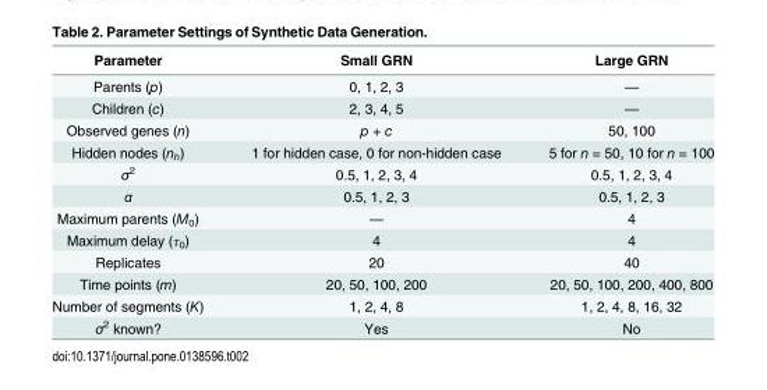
<table><thead><tr><td>Parameter</td><td>Small GRN</td><td>Large GRN</td></tr></thead><tbody><tr><td>Parents (p)</td><td>0, 1, 2, 3</td><td>—</td></tr><tr><td>Children (c)</td><td>2, 3, 4, 5</td><td>—</td></tr><tr><td>Observed genes (n)</td><td>p + c</td><td>50, 100</td></tr><tr><td>Hidden nodes (n<sub>h</sub>)</td><td>1 for hidden case, 0 for non-hidden case</td><td>5 for n = 50, 10 for n = 100</td></tr><tr><td>σ<sup>2</sup></td><td>0.5, 1, 2, 3, 4</td><td>0.5, 1, 2, 3, 4</td></tr><tr><td>α</td><td>0.5, 1, 2, 3</td><td>0.5, 1, 2, 3</td></tr><tr><td>Maximum parents (M<sub>0</sub>)</td><td>—</td><td>4</td></tr><tr><td>Maximum delay (τ<sub>0</sub>)</td><td>4</td><td>4</td></tr><tr><td>Replicates</td><td>20</td><td>40</td></tr><tr><td>Time points (m)</td><td>20, 50, 100, 200</td><td>20, 50, 100, 200, 400, 800</td></tr><tr><td>Number of segments (K)</td><td>1, 2, 4, 8</td><td>1, 2, 4, 8, 16, 32</td></tr><tr><td>σ<sup>2</sup> known?</td><td>Yes</td><td>No</td></tr></tbody></table>